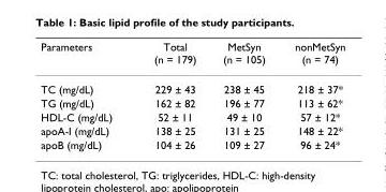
<table><thead><tr><td>Parameters</td><td>Total (n = 179)</td><td>MetSyn (n = 105)</td><td>nonMetSyn (n = 74)</td></tr></thead><tbody><tr><td>TC (mg/dL)</td><td>229 ± 43</td><td>238 ± 45</td><td>218 ± 37*</td></tr><tr><td>TG (mg/dL)</td><td>162 ± 82</td><td>196 ± 77</td><td>113 ± 62*</td></tr><tr><td>HDL-C (mg/dL)</td><td>52 ± 11</td><td>49 ± 10</td><td>57 ± 12*</td></tr><tr><td>apoA-I (mg/dL)</td><td>138 ± 25</td><td>131 ± 25</td><td>148 ± 22*</td></tr><tr><td>apoB (mg/dL)</td><td>104 ± 26</td><td>109 ± 27</td><td>96 ± 24*</td></tr></tbody></table>